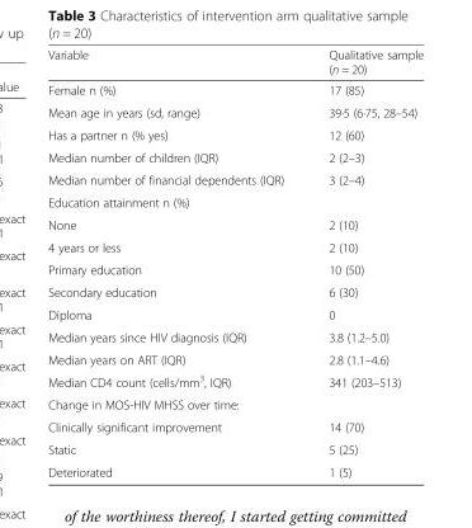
<table><thead><tr><td>Variable</td><td>Qualitative sample (n = 20)</td></tr></thead><tbody><tr><td>Female n (%)</td><td>17 (85)</td></tr><tr><td>Mean age in years (sd, range)</td><td>39·5 (6·75, 28–54)</td></tr><tr><td>Has a partner n (% yes)</td><td>12 (60)</td></tr><tr><td>Median number of children (IQR)</td><td>2 (2–3)</td></tr><tr><td>Median number of financial dependents (IQR)</td><td>3 (2–4)</td></tr><tr><td colspan="2">Education attainment n (%)</td></tr><tr><td>None</td><td>2 (10)</td></tr><tr><td>4 years or less</td><td>2 (10)</td></tr><tr><td>Primary education</td><td>10 (50)</td></tr><tr><td>Secondary education</td><td>6 (30)</td></tr><tr><td>Diploma</td><td>0</td></tr><tr><td>Median years since HIV diagnosis (IQR)</td><td>3.8 (1.2–5.0)</td></tr><tr><td>Median years on ART (IQR)</td><td>2.8 (1.1–4.6)</td></tr><tr><td>Median CD4 count (cells/mm<sup>3</sup>, IQR)</td><td>341 (203–513)</td></tr><tr><td colspan="2">Change in MOS-HIV MHSS over time:</td></tr><tr><td>Clinically significant improvement</td><td>14 (70)</td></tr><tr><td>Static</td><td>5 (25)</td></tr><tr><td>Deteriorated</td><td>1 (5)</td></tr></tbody></table>